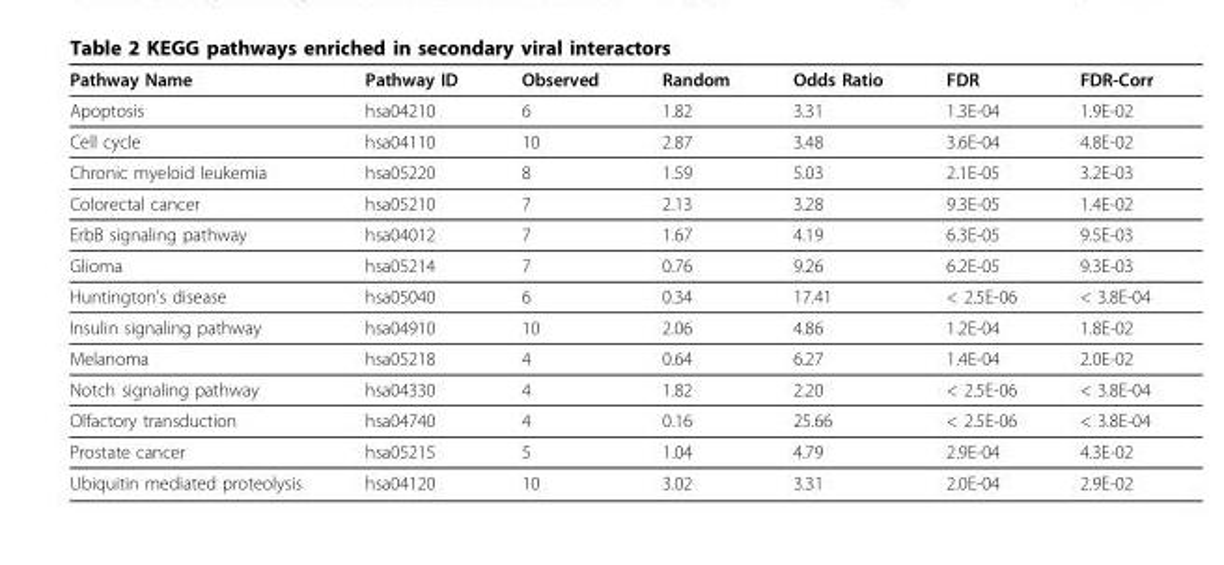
<table><thead><tr><td>Pathway Name</td><td>Pathway ID</td><td>Observed</td><td>Random</td><td>Odds Ratio</td><td>FDR</td><td>FDR-Corr</td></tr></thead><tbody><tr><td>Apoptosis</td><td>hsa04210</td><td>6</td><td>1.82</td><td>3.31</td><td>1.3E-04</td><td>1.9E-02</td></tr><tr><td>Cell cycle</td><td>hsa04110</td><td>10</td><td>2.87</td><td>3.48</td><td>3.6E-04</td><td>4.8E-02</td></tr><tr><td>Chronic myeloid leukemia</td><td>hsa05220</td><td>8</td><td>1.59</td><td>5.03</td><td>2.1E-05</td><td>3.2E-03</td></tr><tr><td>Colorectal cancer</td><td>hsa05210</td><td>7</td><td>2.13</td><td>3.28</td><td>9.3E-05</td><td>1.4E-02</td></tr><tr><td>ErbB signaling pathway</td><td>hsa04012</td><td>7</td><td>1.67</td><td>4.19</td><td>6.3E-05</td><td>9.5E-03</td></tr><tr><td>Glioma</td><td>hsa05214</td><td>7</td><td>0.76</td><td>9.26</td><td>6.2E-05</td><td>9.3E-03</td></tr><tr><td>Huntington’s disease</td><td>hsa05040</td><td>6</td><td>0.34</td><td>17.41</td><td>&lt; 2.5E-06</td><td>&lt; 3.8E-04</td></tr><tr><td>Insulin signaling pathway</td><td>hsa04910</td><td>10</td><td>2.06</td><td>4.86</td><td>1.2E-04</td><td>1.8E-02</td></tr><tr><td>Melanoma</td><td>hsa05218</td><td>4</td><td>0.64</td><td>6.27</td><td>1.4E-04</td><td>2.0E-02</td></tr><tr><td>Notch signaling pathway</td><td>hsa04330</td><td>4</td><td>1.82</td><td>2.20</td><td>&lt; 2.5E-06</td><td>&lt; 3.8E-04</td></tr><tr><td>Olfactory transduction</td><td>hsa04740</td><td>4</td><td>0.16</td><td>25.66</td><td>&lt; 2.5E-06</td><td>&lt; 3.8E-04</td></tr><tr><td>Prostate cancer</td><td>hsa05215</td><td>5</td><td>1.04</td><td>4.79</td><td>2.9E-04</td><td>4.3E-02</td></tr><tr><td>Ubiquitin mediated proteolysis</td><td>hsa04120</td><td>10</td><td>3.02</td><td>3.31</td><td>2.0E-04</td><td>2.9E-02</td></tr></tbody></table>